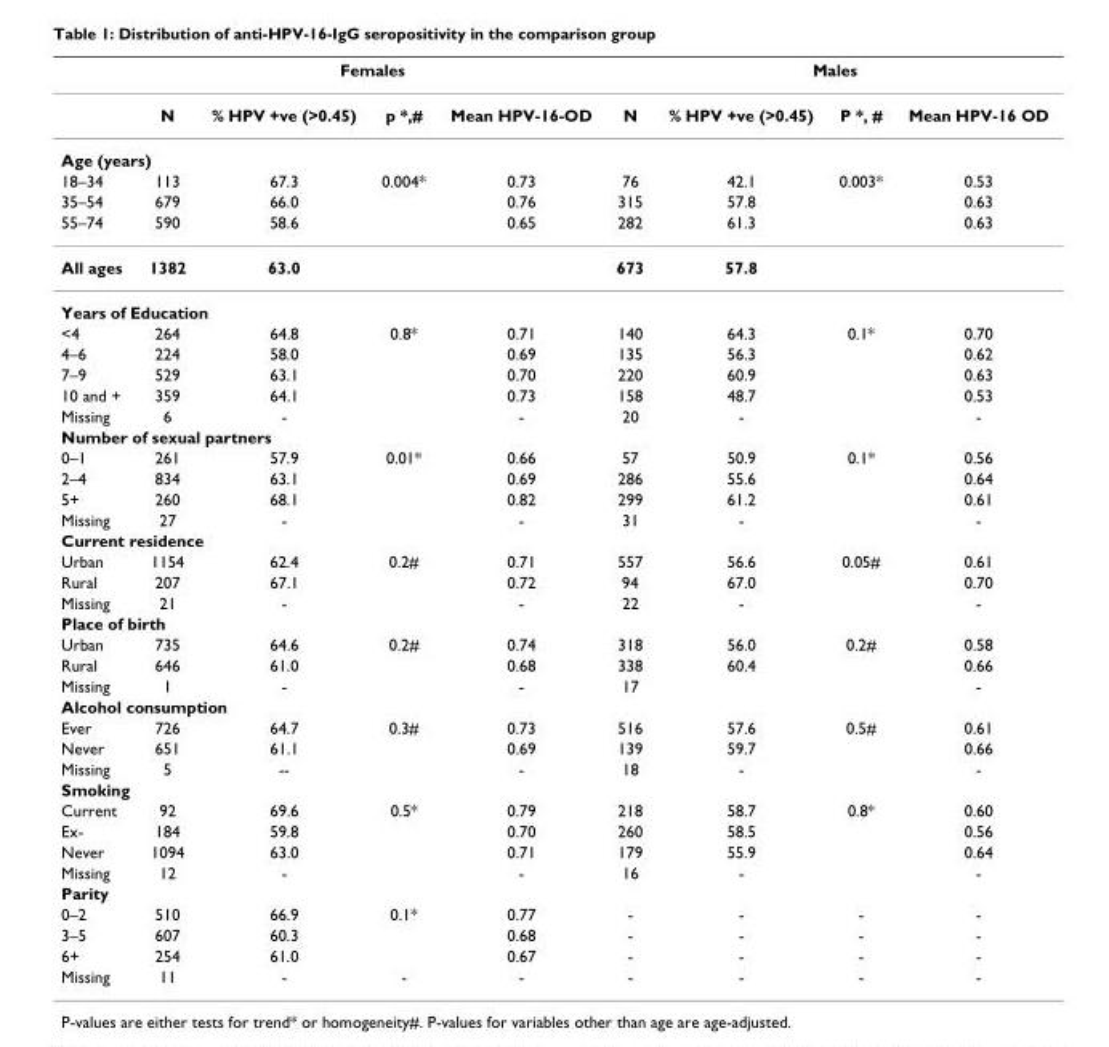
<table><thead><tr><td rowspan="2"></td><td colspan="4">Females</td><td colspan="4">Males</td></tr><tr><td>N</td><td>% HPV +ve (&gt;0.45)</td><td>p *,#</td><td>Mean HPV-16-OD</td><td>N</td><td>% HPV +ve (&gt;0.45)</td><td>P *, #</td><td>Mean HPV-16 OD</td></tr></thead><tbody><tr><td colspan="9">Age (years)</td></tr><tr><td>18–34</td><td>113</td><td>67.3</td><td>0.004*</td><td>0.73</td><td>76</td><td>42.1</td><td>0.003*</td><td>0.53</td></tr><tr><td>35–54</td><td>679</td><td>66.0</td><td></td><td>0.76</td><td>315</td><td>57.8</td><td></td><td>0.63</td></tr><tr><td>55–74</td><td>590</td><td>58.6</td><td></td><td>0.65</td><td>282</td><td>61.3</td><td></td><td>0.63</td></tr><tr><td>All ages</td><td>1382</td><td>63.0</td><td></td><td></td><td>673</td><td>57.8</td><td></td><td></td></tr><tr><td colspan="9">Years of Education</td></tr><tr><td>&lt;4</td><td>264</td><td>64.8</td><td>0.8*</td><td>0.71</td><td>140</td><td>64.3</td><td>0.1*</td><td>0.70</td></tr><tr><td>4–6</td><td>224</td><td>58.0</td><td></td><td>0.69</td><td>135</td><td>56.3</td><td></td><td>0.62</td></tr><tr><td>7–9</td><td>529</td><td>63.1</td><td></td><td>0.70</td><td>220</td><td>60.9</td><td></td><td>0.63</td></tr><tr><td>10 and +</td><td>359</td><td>64.1</td><td></td><td>0.73</td><td>158</td><td>48.7</td><td></td><td>0.53</td></tr><tr><td>Missing</td><td>6</td><td>-</td><td></td><td>-</td><td>20</td><td>-</td><td></td><td>-</td></tr><tr><td colspan="9">Number of sexual partners</td></tr><tr><td>0–1</td><td>261</td><td>57.9</td><td>0.01*</td><td>0.66</td><td>57</td><td>50.9</td><td>0.1*</td><td>0.56</td></tr><tr><td>2–4</td><td>834</td><td>63.1</td><td></td><td>0.69</td><td>286</td><td>55.6</td><td></td><td>0.64</td></tr><tr><td>5+</td><td>260</td><td>68.1</td><td></td><td>0.82</td><td>299</td><td>61.2</td><td></td><td>0.61</td></tr><tr><td>Missing</td><td>27</td><td>-</td><td></td><td>-</td><td>31</td><td>-</td><td></td><td>-</td></tr><tr><td colspan="9">Current residence</td></tr><tr><td>Urban</td><td>1154</td><td>62.4</td><td>0.2#</td><td>0.71</td><td>557</td><td>56.6</td><td>0.05#</td><td>0.61</td></tr><tr><td>Rural</td><td>207</td><td>67.1</td><td></td><td>0.72</td><td>94</td><td>67.0</td><td></td><td>0.70</td></tr><tr><td>Missing</td><td>21</td><td>-</td><td></td><td>-</td><td>22</td><td>-</td><td></td><td>-</td></tr><tr><td colspan="9">Place of birth</td></tr><tr><td>Urban</td><td>735</td><td>64.6</td><td>0.2#</td><td>0.74</td><td>318</td><td>56.0</td><td>0.2#</td><td>0.58</td></tr><tr><td>Rural</td><td>646</td><td>61.0</td><td></td><td>0.68</td><td>338</td><td>60.4</td><td></td><td>0.66</td></tr><tr><td>Missing</td><td>1</td><td>-</td><td></td><td>-</td><td>17</td><td></td><td></td><td>-</td></tr><tr><td colspan="9">Alcohol consumption</td></tr><tr><td>Ever</td><td>726</td><td>64.7</td><td>0.3#</td><td>0.73</td><td>516</td><td>57.6</td><td>0.5#</td><td>0.61</td></tr><tr><td>Never</td><td>651</td><td>61.1</td><td></td><td>0.69</td><td>139</td><td>59.7</td><td></td><td>0.66</td></tr><tr><td>Missing</td><td>5</td><td>--</td><td></td><td>-</td><td>18</td><td>-</td><td></td><td>-</td></tr><tr><td colspan="9">Smoking</td></tr><tr><td>Current</td><td>92</td><td>69.6</td><td>0.5*</td><td>0.79</td><td>218</td><td>58.7</td><td>0.8*</td><td>0.60</td></tr><tr><td>Ex-</td><td>184</td><td>59.8</td><td></td><td>0.70</td><td>260</td><td>58.5</td><td></td><td>0.56</td></tr><tr><td>Never</td><td>1094</td><td>63.0</td><td></td><td>0.71</td><td>179</td><td>55.9</td><td></td><td>0.64</td></tr><tr><td>Missing</td><td>12</td><td>-</td><td></td><td>-</td><td>16</td><td>-</td><td></td><td>-</td></tr><tr><td colspan="9">Parity</td></tr><tr><td>0–2</td><td>510</td><td>66.9</td><td>0.1*</td><td>0.77</td><td>-</td><td>-</td><td>-</td><td>-</td></tr><tr><td>3–5</td><td>607</td><td>60.3</td><td></td><td>0.68</td><td>-</td><td>-</td><td>-</td><td>-</td></tr><tr><td>6+</td><td>254</td><td>61.0</td><td></td><td>0.67</td><td>-</td><td>-</td><td>-</td><td>-</td></tr><tr><td>Missing</td><td>11</td><td>-</td><td>-</td><td>-</td><td>-</td><td>-</td><td>-</td><td>-</td></tr></tbody></table>